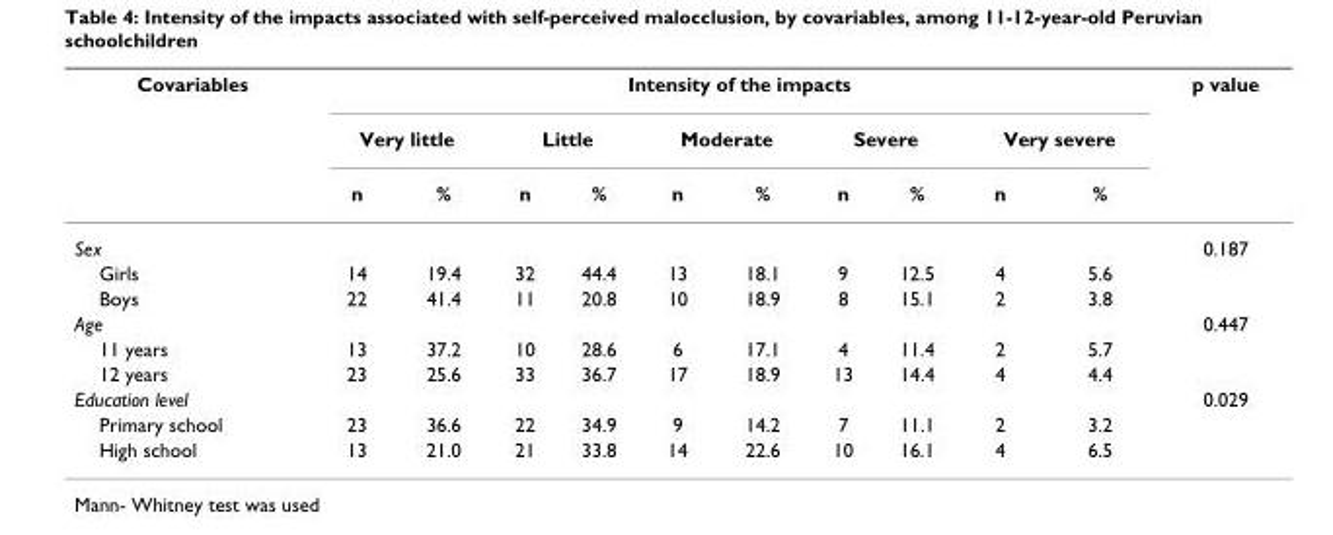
<table><thead><tr><td rowspan="3">Covariables</td><td colspan="10">Intensity of the impacts</td><td rowspan="3">p value</td></tr><tr><td colspan="2">Very little</td><td colspan="2">Little</td><td colspan="2">Moderate</td><td colspan="2">Severe</td><td colspan="2">Very severe</td></tr><tr><td>n</td><td>%</td><td>n</td><td>%</td><td>n</td><td>%</td><td>n</td><td>%</td><td>n</td><td>%</td></tr></thead><tbody><tr><td>Sex</td><td></td><td></td><td></td><td></td><td></td><td></td><td></td><td></td><td></td><td></td><td>0.187</td></tr><tr><td>Girls</td><td>14</td><td>19.4</td><td>32</td><td>44.4</td><td>13</td><td>18.1</td><td>9</td><td>12.5</td><td>4</td><td>5.6</td><td></td></tr><tr><td>Boys</td><td>22</td><td>41.4</td><td>11</td><td>20.8</td><td>10</td><td>18.9</td><td>8</td><td>15.1</td><td>2</td><td>3.8</td><td></td></tr><tr><td>Age</td><td></td><td></td><td></td><td></td><td></td><td></td><td></td><td></td><td></td><td></td><td>0.447</td></tr><tr><td>11 years</td><td>13</td><td>37.2</td><td>10</td><td>28.6</td><td>6</td><td>17.1</td><td>4</td><td>11.4</td><td>2</td><td>5.7</td><td></td></tr><tr><td>12 years</td><td>23</td><td>25.6</td><td>33</td><td>36.7</td><td>17</td><td>18.9</td><td>13</td><td>14.4</td><td>4</td><td>4.4</td><td></td></tr><tr><td>Education level</td><td></td><td></td><td></td><td></td><td></td><td></td><td></td><td></td><td></td><td></td><td>0.029</td></tr><tr><td>Primary school</td><td>23</td><td>36.6</td><td>22</td><td>34.9</td><td>9</td><td>14.2</td><td>7</td><td>11.1</td><td>2</td><td>3.2</td><td></td></tr><tr><td>High school</td><td>13</td><td>21.0</td><td>21</td><td>33.8</td><td>14</td><td>22.6</td><td>10</td><td>16.1</td><td>4</td><td>6.5</td><td></td></tr></tbody></table>